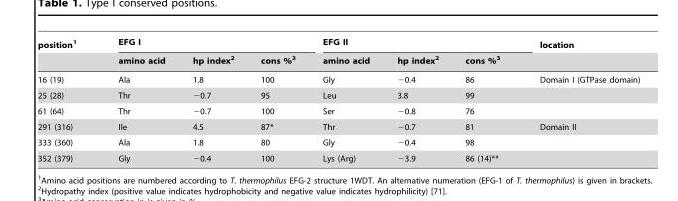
<table><thead><tr><td rowspan="2">position<sup>1</sup></td><td colspan="3">EFG I</td><td colspan="3">EFG II</td><td rowspan="2">location</td></tr><tr><td>amino acid</td><td>hp index<sup>2</sup></td><td>cons %<sup>3</sup></td><td>amino acid</td><td>hp index<sup>2</sup></td><td>cons %<sup>3</sup></td></tr></thead><tbody><tr><td>16 (19)</td><td>Ala</td><td>1.8</td><td>100</td><td>Gly</td><td>−0.4</td><td>86</td><td>Domain I (GTPase domain)</td></tr><tr><td>25 (28)</td><td>Thr</td><td>−0.7</td><td>95</td><td>Leu</td><td>3.8</td><td>99</td><td></td></tr><tr><td>61 (64)</td><td>Thr</td><td>−0.7</td><td>100</td><td>Ser</td><td>−0.8</td><td>76</td><td></td></tr><tr><td>291 (316)</td><td>Ile</td><td>4.5</td><td>87*</td><td>Thr</td><td>−0.7</td><td>81</td><td>Domain II</td></tr><tr><td>333 (360)</td><td>Ala</td><td>1.8</td><td>80</td><td>Gly</td><td>−0.4</td><td>98</td><td></td></tr><tr><td>352 (379)</td><td>Gly</td><td>−0.4</td><td>100</td><td>Lys (Arg)</td><td>−3.9</td><td>86 (14)**</td><td></td></tr></tbody></table>